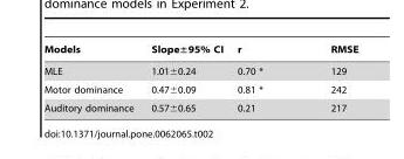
<table><thead><tr><td>Models</td><td>Slope±95% CI</td><td>r</td><td>RMSE</td></tr></thead><tbody><tr><td>MLE</td><td>1.01±0.24</td><td>0.70 *</td><td>129</td></tr><tr><td>Motor dominance</td><td>0.47±0.09</td><td>0.81 *</td><td>242</td></tr><tr><td>Auditory dominance</td><td>0.57±0.65</td><td>0.21</td><td>217</td></tr></tbody></table>